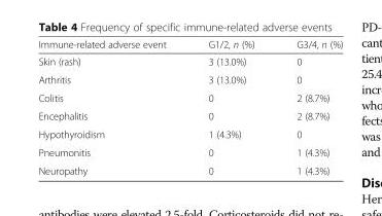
<table><thead><tr><td>Immune-related adverse event</td><td>G1/2, n (%)</td><td>G3/4, n (%)</td></tr></thead><tbody><tr><td>Skin (rash)</td><td>3 (13.0%)</td><td>0</td></tr><tr><td>Arthritis</td><td>3 (13.0%)</td><td>0</td></tr><tr><td>Colitis</td><td>0</td><td>2 (8.7%)</td></tr><tr><td>Encephalitis</td><td>0</td><td>2 (8.7%)</td></tr><tr><td>Hypothyroidism</td><td>1 (4.3%)</td><td>0</td></tr><tr><td>Pneumonitis</td><td>0</td><td>1 (4.3%)</td></tr><tr><td>Neuropathy</td><td>0</td><td>1 (4.3%)</td></tr></tbody></table>